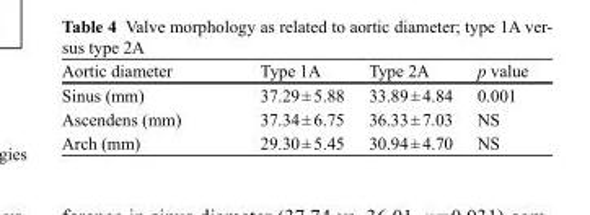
<table><thead><tr><td>Aortic diameter</td><td>Type 1A</td><td>Type 2A</td><td>p value</td></tr></thead><tbody><tr><td>Sinus (mm)</td><td>37.29 ± 5.88</td><td>33.89 ± 4.84</td><td>0.001</td></tr><tr><td>Ascendens (mm)</td><td>37.34 ± 6.75</td><td>36.33 ± 7.03</td><td>NS</td></tr><tr><td>Arch (mm)</td><td>29.30 ± 5.45</td><td>30.94 ± 4.70</td><td>NS</td></tr></tbody></table>